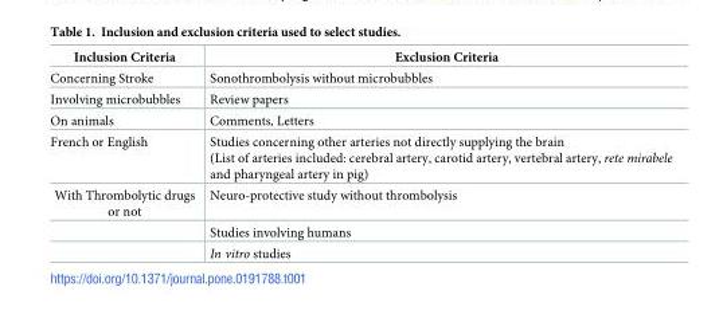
<table><thead><tr><td>Inclusion Criteria</td><td>Exclusion Criteria</td></tr></thead><tbody><tr><td>Concerning Stroke</td><td>Sonothrombolysis without microbubbles</td></tr><tr><td>Involving microbubbles</td><td>Review papers</td></tr><tr><td>On animals</td><td>Comments, Letters</td></tr><tr><td>French or English</td><td>Studies concerning other arteries not directly supplying the brain (List of arteries included: cerebral artery, carotid artery, vertebral artery, rete mirabele and pharyngeal artery in pig)</td></tr><tr><td rowspan="3">With Thrombolytic drugs or not</td><td>Neuro-protective study without thrombolysis</td></tr><tr><td>Studies involving humans</td></tr><tr><td>In vitro studies</td></tr></tbody></table>